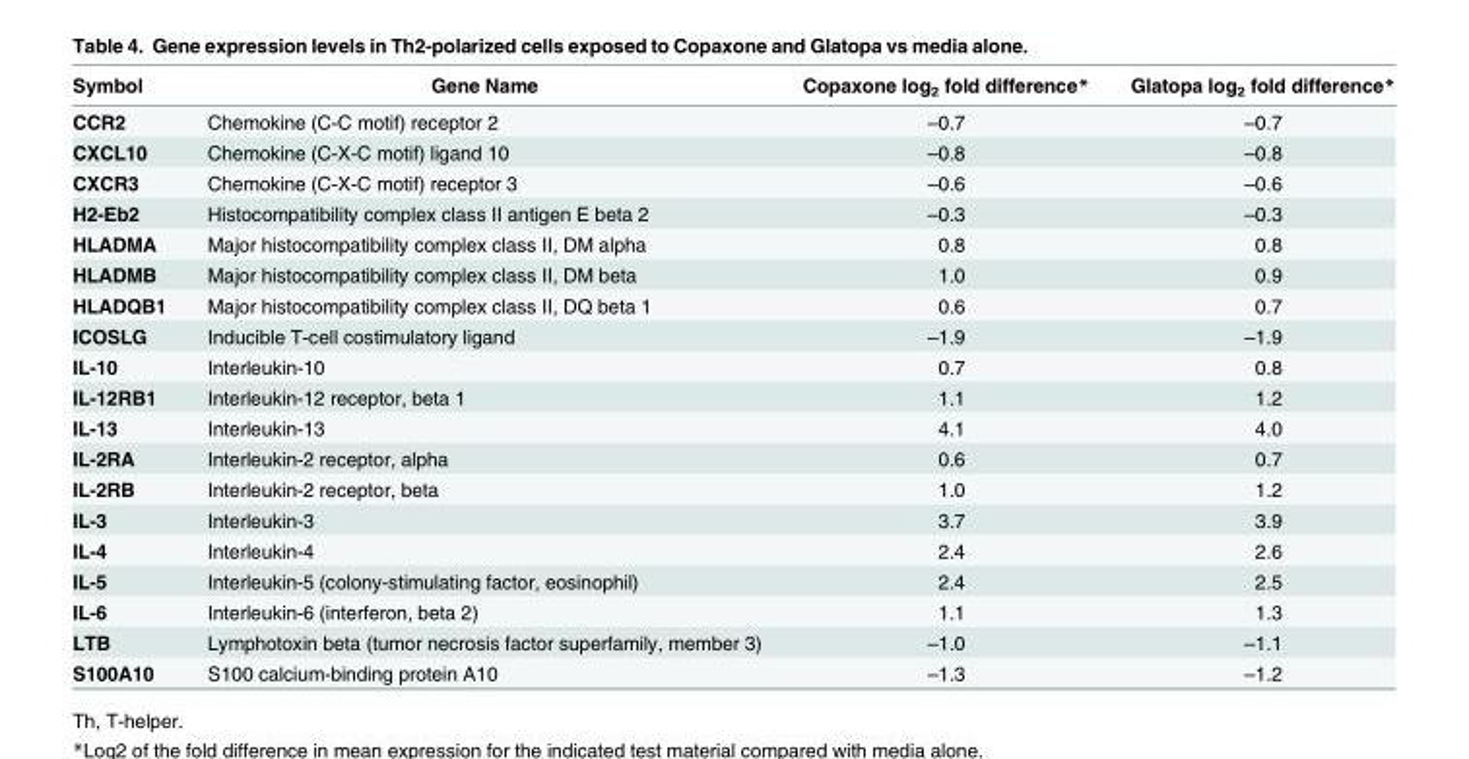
<table><thead><tr><td>Symbol</td><td>Gene Name</td><td>Copaxone log<sub>2</sub> fold difference*</td><td>Glatopa log<sub>2</sub> fold difference*</td></tr></thead><tbody><tr><td>CCR2</td><td>Chemokine (C-C motif) receptor 2</td><td>–0.7</td><td>–0.7</td></tr><tr><td>CXCL10</td><td>Chemokine (C-X-C motif) ligand 10</td><td>–0.8</td><td>–0.8</td></tr><tr><td>CXCR3</td><td>Chemokine (C-X-C motif) receptor 3</td><td>–0.6</td><td>–0.6</td></tr><tr><td>H2-Eb2</td><td>Histocompatibility complex class II antigen E beta 2</td><td>–0.3</td><td>–0.3</td></tr><tr><td>HLADMA</td><td>Major histocompatibility complex class II, DM alpha</td><td>0.8</td><td>0.8</td></tr><tr><td>HLADMB</td><td>Major histocompatibility complex class II, DM beta</td><td>1.0</td><td>0.9</td></tr><tr><td>HLADQB1</td><td>Major histocompatibility complex class II, DQ beta 1</td><td>0.6</td><td>0.7</td></tr><tr><td>ICOSLG</td><td>Inducible T-cell costimulatory ligand</td><td>–1.9</td><td>–1.9</td></tr><tr><td>IL-10</td><td>Interleukin-10</td><td>0.7</td><td>0.8</td></tr><tr><td>IL-12RB1</td><td>Interleukin-12 receptor, beta 1</td><td>1.1</td><td>1.2</td></tr><tr><td>IL-13</td><td>Interleukin-13</td><td>4.1</td><td>4.0</td></tr><tr><td>IL-2RA</td><td>Interleukin-2 receptor, alpha</td><td>0.6</td><td>0.7</td></tr><tr><td>IL-2RB</td><td>Interleukin-2 receptor, beta</td><td>1.0</td><td>1.2</td></tr><tr><td>IL-3</td><td>Interleukin-3</td><td>3.7</td><td>3.9</td></tr><tr><td>IL-4</td><td>Interleukin-4</td><td>2.4</td><td>2.6</td></tr><tr><td>IL-5</td><td>Interleukin-5 (colony-stimulating factor, eosinophil)</td><td>2.4</td><td>2.5</td></tr><tr><td>IL-6</td><td>Interleukin-6 (interferon, beta 2)</td><td>1.1</td><td>1.3</td></tr><tr><td>LTB</td><td>Lymphotoxin beta (tumor necrosis factor superfamily, member 3)</td><td>–1.0</td><td>–1.1</td></tr><tr><td>S100A10</td><td>S100 calcium-binding protein A10</td><td>–1.3</td><td>–1.2</td></tr></tbody></table>